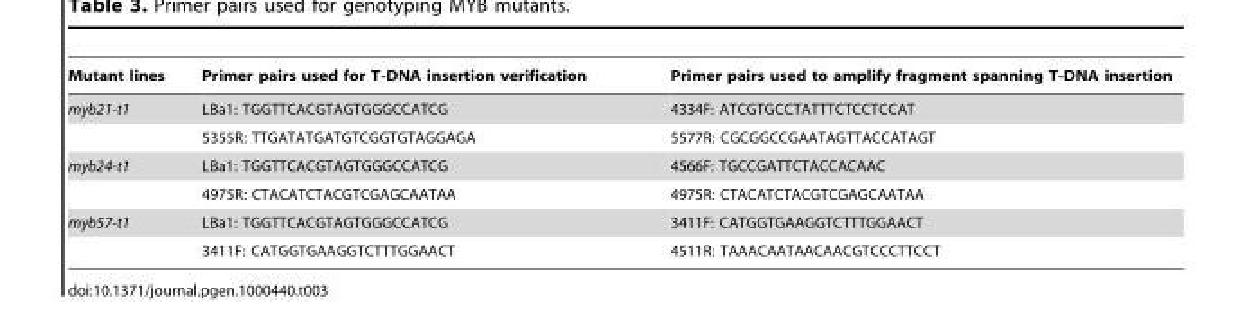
<table><thead><tr><td>Mutant lines</td><td>Primer pairs used for T-DNA insertion verification</td><td>Primer pairs used to amplify fragment spanning T-DNA insertion</td></tr></thead><tbody><tr><td rowspan="2">myb21-t1</td><td>LBa1: TGGTTCACGTAGTGGGCCATCG</td><td>4334F: ATCGTGCCTATTTCTCCTCCAT</td></tr><tr><td>5355R: TTGATATGATGTCGGTGTAGGAGA</td><td>5577R: CGCGGCCGAATAGTTACCATAGT</td></tr><tr><td rowspan="2">myb24-t1</td><td>LBa1: TGGTTCACGTAGTGGGCCATCG</td><td>4566F: TGCCGATTCTACCACAAC</td></tr><tr><td>4975R: CTACATCTACGTCGAGCAATAA</td><td>4975R: CTACATCTACGTCGAGCAATAA</td></tr><tr><td rowspan="2">myb57-t1</td><td>LBa1: TGGTTCACGTAGTGGGCCATCG</td><td>3411F: CATGGTGAAGGTCTTTGGAACT</td></tr><tr><td>3411F: CATGGTGAAGGTCTTTGGAACT</td><td>4511R: TAAACAATAACAACGTCCCTTCCT</td></tr></tbody></table>